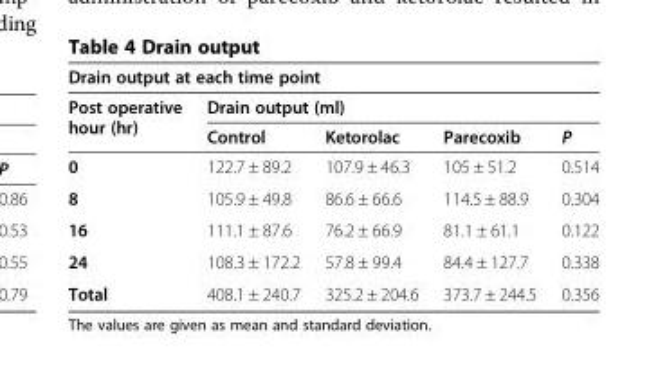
<table><thead><tr><td colspan="5">Drain output at each time point</td></tr><tr><td rowspan="2">Post operative hour (hr)</td><td colspan="4">Drain output (ml)</td></tr><tr><td>Control</td><td>Ketorolac</td><td>Parecoxib</td><td>P</td></tr></thead><tbody><tr><td>0</td><td>122.7 ± 89.2</td><td>107.9 ± 46.3</td><td>105 ± 51.2</td><td>0.514</td></tr><tr><td>8</td><td>105.9 ± 49.8</td><td>86.6 ± 66.6</td><td>114.5 ± 88.9</td><td>0.304</td></tr><tr><td>16</td><td>111.1 ± 87.6</td><td>76.2 ± 66.9</td><td>81.1 ± 61.1</td><td>0.122</td></tr><tr><td>24</td><td>108.3 ± 172.2</td><td>57.8 ± 99.4</td><td>84.4 ± 127.7</td><td>0.338</td></tr><tr><td>Total</td><td>408.1 ± 240.7</td><td>325.2 ± 204.6</td><td>373.7 ± 244.5</td><td>0.356</td></tr></tbody></table>